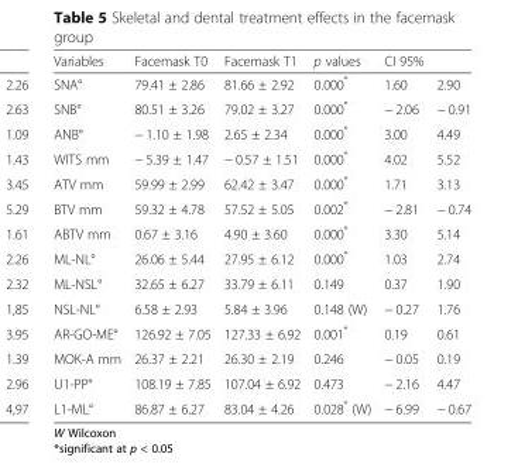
<table><thead><tr><td>Variables</td><td>Facemask T0</td><td>Facemask T1</td><td>p values</td><td>CI 95%</td><td></td></tr></thead><tbody><tr><td>SNA°</td><td>79.41 ± 2.86</td><td>81.66 ± 2.92</td><td>0.000*</td><td>1.60</td><td>2.90</td></tr><tr><td>SNB°</td><td>80.51 ± 3.26</td><td>79.02 ± 3.27</td><td>0.000*</td><td>− 2.06</td><td>− 0.91</td></tr><tr><td>ANB°</td><td>− 1.10 ± 1.98</td><td>2.65 ± 2.34</td><td>0.000*</td><td>3.00</td><td>4.49</td></tr><tr><td>WITS mm</td><td>− 5.39 ± 1.47</td><td>− 0.57 ± 1.51</td><td>0.000*</td><td>4.02</td><td>5.52</td></tr><tr><td>ATV mm</td><td>59.99 ± 2.99</td><td>62.42 ± 3.47</td><td>0.000*</td><td>1.71</td><td>3.13</td></tr><tr><td>BTV mm</td><td>59.32 ± 4.78</td><td>57.52 ± 5.05</td><td>0.002*</td><td>− 2.81</td><td>− 0.74</td></tr><tr><td>ABTV mm</td><td>0.67 ± 3.16</td><td>4.90 ± 3.60</td><td>0.000*</td><td>3.30</td><td>5.14</td></tr><tr><td>ML-NL°</td><td>26.06 ± 5.44</td><td>27.95 ± 6.12</td><td>0.000*</td><td>1.03</td><td>2.74</td></tr><tr><td>ML-NSL°</td><td>32.65 ± 6.27</td><td>33.79 ± 6.11</td><td>0.149</td><td>0.37</td><td>1.90</td></tr><tr><td>NSL-NL°</td><td>6.58 ± 2.93</td><td>5.84 ± 3.96</td><td>0.148 (W)</td><td>− 0.27</td><td>1.76</td></tr><tr><td>AR-GO-ME°</td><td>126.92 ± 7.05</td><td>127.33 ± 6.92</td><td>0.001*</td><td>0.19</td><td>0.61</td></tr><tr><td>MOK-A mm</td><td>26.37 ± 2.21</td><td>26.30 ± 2.19</td><td>0.246</td><td>− 0.05</td><td>0.19</td></tr><tr><td>U1-PP°</td><td>108.19 ± 7.85</td><td>107.04 ± 6.92</td><td>0.473</td><td>− 2.16</td><td>4.47</td></tr><tr><td>L1-ML°</td><td>86.87 ± 6.27</td><td>83.04 ± 4.26</td><td>0.028* (W)</td><td>− 6.99</td><td>− 0.67</td></tr></tbody></table>